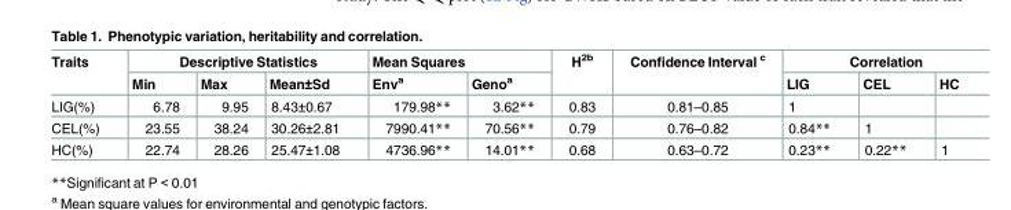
<table><thead><tr><td rowspan="2">Traits</td><td colspan="3">Descriptive Statistics</td><td colspan="2">Mean Squares</td><td rowspan="2">H<sup>2b</sup></td><td rowspan="2">Confidence Interval <sup>c</sup></td><td colspan="3">Correlation</td></tr><tr><td>Min</td><td>Max</td><td>Mean±Sd</td><td>Env<sup>a</sup></td><td>Geno<sup>a</sup></td><td>LIG</td><td>CEL</td><td>HC</td></tr></thead><tbody><tr><td>LIG(%)</td><td>6.78</td><td>9.95</td><td>8.43±0.67</td><td>179.98**</td><td>3.62**</td><td>0.83</td><td>0.81–0.85</td><td>1</td><td></td><td></td></tr><tr><td>CEL(%)</td><td>23.55</td><td>38.24</td><td>30.26±2.81</td><td>7990.41**</td><td>70.56**</td><td>0.79</td><td>0.76–0.82</td><td>0.84**</td><td>1</td><td></td></tr><tr><td>HC(%)</td><td>22.74</td><td>28.26</td><td>25.47±1.08</td><td>4736.96**</td><td>14.01**</td><td>0.68</td><td>0.63–0.72</td><td>0.23**</td><td>0.22**</td><td>1</td></tr></tbody></table>